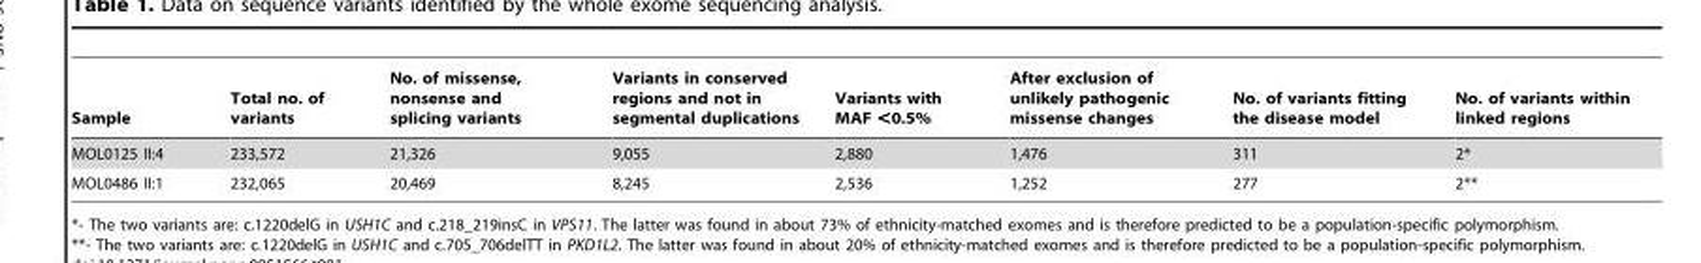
<table><thead><tr><td>Sample</td><td>Total no. of variants</td><td>No. of missense, nonsense and splicing variants</td><td>Variants in conserved regions and not in segmental duplications</td><td>Variants with MAF &lt;0.5%</td><td>After exclusion of unlikely pathogenic missense changes</td><td>No. of variants fitting the disease model</td><td>No. of variants within linked regions</td></tr></thead><tbody><tr><td>MOL0125 II:4</td><td>233,572</td><td>21,326</td><td>9,055</td><td>2,880</td><td>1,476</td><td>311</td><td>2*</td></tr><tr><td>MOL0486 II:1</td><td>232,065</td><td>20,469</td><td>8,245</td><td>2,536</td><td>1,252</td><td>277</td><td>2**</td></tr></tbody></table>